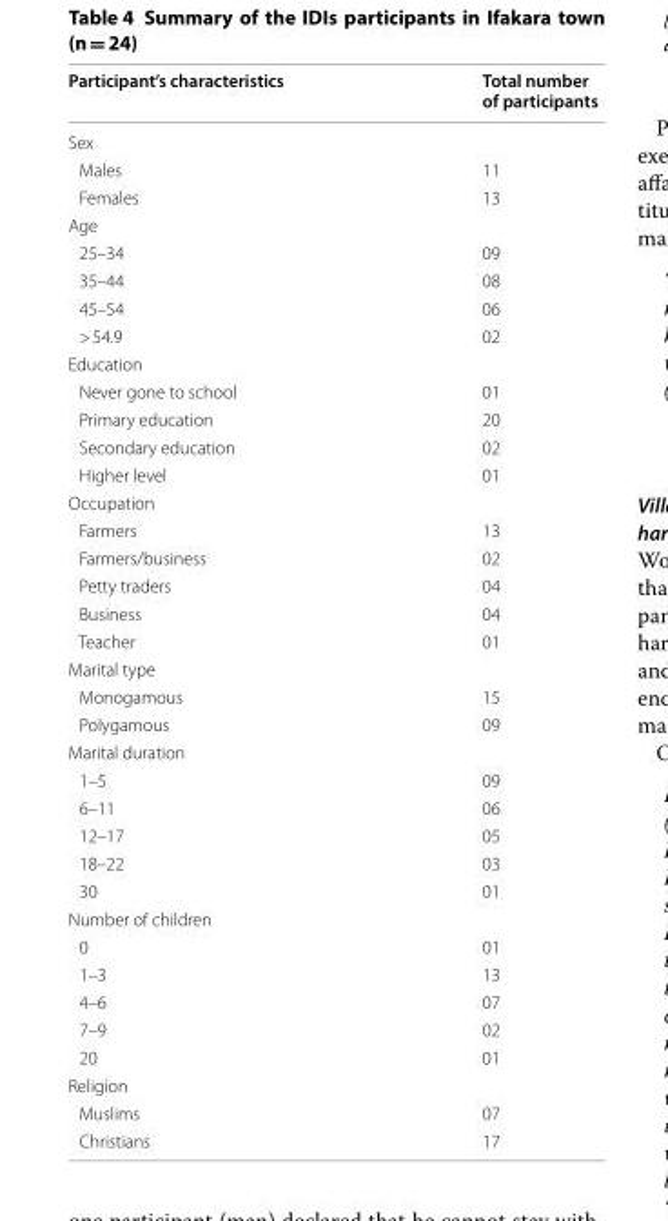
<table><thead><tr><td>Participant’s characteristics</td><td>Total number of participants</td></tr></thead><tbody><tr><td colspan="2">Sex</td></tr><tr><td>Males</td><td>11</td></tr><tr><td>Females</td><td>13</td></tr><tr><td colspan="2">Age</td></tr><tr><td>25–34</td><td>09</td></tr><tr><td>35–44</td><td>08</td></tr><tr><td>45–54</td><td>06</td></tr><tr><td>&gt; 54.9</td><td>02</td></tr><tr><td colspan="2">Education</td></tr><tr><td>Never gone to school</td><td>01</td></tr><tr><td>Primary education</td><td>20</td></tr><tr><td>Secondary education</td><td>02</td></tr><tr><td>Higher level</td><td>01</td></tr><tr><td colspan="2">Occupation</td></tr><tr><td>Farmers</td><td>13</td></tr><tr><td>Farmers/business</td><td>02</td></tr><tr><td>Petty traders</td><td>04</td></tr><tr><td>Business</td><td>04</td></tr><tr><td>Teacher</td><td>01</td></tr><tr><td colspan="2">Marital type</td></tr><tr><td>Monogamous</td><td>15</td></tr><tr><td>Polygamous</td><td>09</td></tr><tr><td colspan="2">Marital duration</td></tr><tr><td>1–5</td><td>09</td></tr><tr><td>6–11</td><td>06</td></tr><tr><td>12–17</td><td>05</td></tr><tr><td>18–22</td><td>03</td></tr><tr><td>30</td><td>01</td></tr><tr><td colspan="2">Number of children</td></tr><tr><td>0</td><td>01</td></tr><tr><td>1–3</td><td>13</td></tr><tr><td>4–6</td><td>07</td></tr><tr><td>7–9</td><td>02</td></tr><tr><td>20</td><td>01</td></tr><tr><td colspan="2">Religion</td></tr><tr><td>Muslims</td><td>07</td></tr><tr><td>Christians</td><td>17</td></tr></tbody></table>